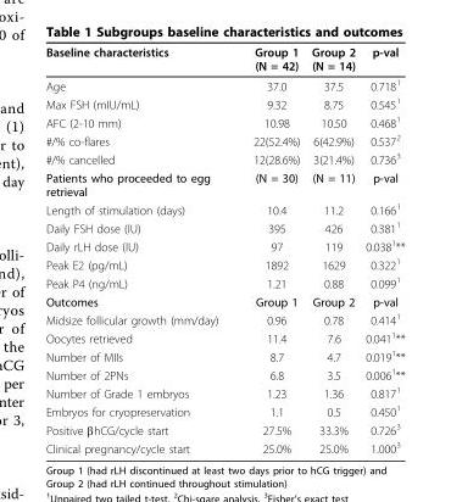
<table><thead><tr><td>Baseline characteristics</td><td>Group 1 (N = 42)</td><td>Group 2 (N = 14)</td><td>p-val</td></tr></thead><tbody><tr><td>Age</td><td>37.0</td><td>37.5</td><td>0.718<sup>1</sup></td></tr><tr><td>Max FSH (mIU/mL)</td><td>9.32</td><td>8.75</td><td>0.545<sup>1</sup></td></tr><tr><td>AFC (2-10 mm)</td><td>10.98</td><td>10.50</td><td>0.468<sup>1</sup></td></tr><tr><td>#/% co-flares</td><td>22(52.4%)</td><td>6(42.9%)</td><td>0.537<sup>2</sup></td></tr><tr><td>#/% cancelled</td><td>12(28.6%)</td><td>3(21.4%)</td><td>0.736<sup>3</sup></td></tr><tr><td>Patients who proceeded to egg retrieval</td><td>(N = 30)</td><td>(N = 11)</td><td>p-val</td></tr><tr><td>Length of stimulation (days)</td><td>10.4</td><td>11.2</td><td>0.166<sup>1</sup></td></tr><tr><td>Daily FSH dose (IU)</td><td>395</td><td>426</td><td>0.381<sup>1</sup></td></tr><tr><td>Daily rLH dose (IU)</td><td>97</td><td>119</td><td>0.038<sup>1</sup>**</td></tr><tr><td>Peak E2 (pg/mL)</td><td>1892</td><td>1629</td><td>0.322<sup>1</sup></td></tr><tr><td>Peak P4 (ng/mL)</td><td>1.21</td><td>0.88</td><td>0.099<sup>1</sup></td></tr><tr><td>Outcomes</td><td>Group 1</td><td>Group 2</td><td>p-val</td></tr><tr><td>Midsize follicular growth (mm/day)</td><td>0.96</td><td>0.78</td><td>0.414<sup>1</sup></td></tr><tr><td>Oocytes retrieved</td><td>11.4</td><td>7.6</td><td>0.041<sup>1</sup>**</td></tr><tr><td>Number of MIIs</td><td>8.7</td><td>4.7</td><td>0.019<sup>1</sup>**</td></tr><tr><td>Number of 2PNs</td><td>6.8</td><td>3.5</td><td>0.006<sup>1</sup>**</td></tr><tr><td>Number of Grade 1 embryos</td><td>1.23</td><td>1.36</td><td>0.817<sup>1</sup></td></tr><tr><td>Embryos for cryopreservation</td><td>1.1</td><td>0.5</td><td>0.450<sup>1</sup></td></tr><tr><td>Positive βhCG/cycle start</td><td>27.5%</td><td>33.3%</td><td>0.726<sup>3</sup></td></tr><tr><td>Clinical pregnancy/cycle start</td><td>25.0%</td><td>25.0%</td><td>1.000<sup>3</sup></td></tr></tbody></table>